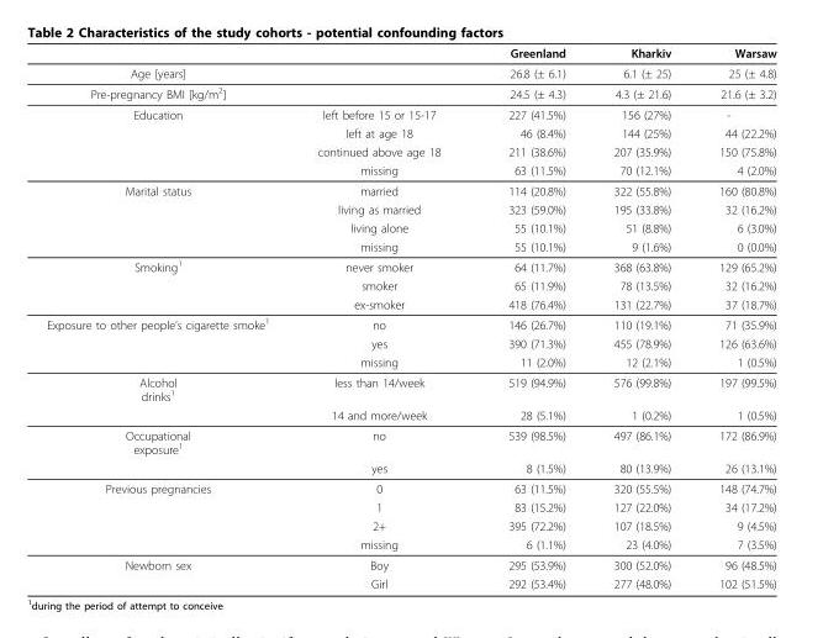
<table><thead><tr><td></td><td></td><td>Greenland</td><td>Kharkiv</td><td>Warsaw</td></tr></thead><tbody><tr><td>Age [years]</td><td></td><td>26.8 (± 6.1)</td><td>6.1 (± 25)</td><td>25 (± 4.8)</td></tr><tr><td>Pre-pregnancy BMI [kg/m<sup>2</sup>]</td><td></td><td>24.5 (± 4.3)</td><td>4.3 (± 21.6)</td><td>21.6 (± 3.2)</td></tr><tr><td rowspan="4">Education</td><td>left before 15 or 15-17</td><td>227 (41.5%)</td><td>156 (27%)</td><td>-</td></tr><tr><td>left at age 18</td><td>46 (8.4%)</td><td>144 (25%)</td><td>44 (22.2%)</td></tr><tr><td>continued above age 18</td><td>211 (38.6%)</td><td>207 (35.9%)</td><td>150 (75.8%)</td></tr><tr><td>missing</td><td>63 (11.5%)</td><td>70 (12.1%)</td><td>4 (2.0%)</td></tr><tr><td rowspan="4">Marital status</td><td>married</td><td>114 (20.8%)</td><td>322 (55.8%)</td><td>160 (80.8%)</td></tr><tr><td>living as married</td><td>323 (59.0%)</td><td>195 (33.8%)</td><td>32 (16.2%)</td></tr><tr><td>living alone</td><td>55 (10.1%)</td><td>51 (8.8%)</td><td>6 (3.0%)</td></tr><tr><td>missing</td><td>55 (10.1%)</td><td>9 (1.6%)</td><td>0 (0.0%)</td></tr><tr><td rowspan="3">Smoking<sup>1</sup></td><td>never smoker</td><td>64 (11.7%)</td><td>368 (63.8%)</td><td>129 (65.2%)</td></tr><tr><td>smoker</td><td>65 (11.9%)</td><td>78 (13.5%)</td><td>32 (16.2%)</td></tr><tr><td>ex-smoker</td><td>418 (76.4%)</td><td>131 (22.7%)</td><td>37 (18.7%)</td></tr><tr><td rowspan="3">Exposure to other people’s cigarette smoke<sup>1</sup></td><td>no</td><td>146 (26.7%)</td><td>110 (19.1%)</td><td>71 (35.9%)</td></tr><tr><td>yes</td><td>390 (71.3%)</td><td>455 (78.9%)</td><td>126 (63.6%)</td></tr><tr><td>missing</td><td>11 (2.0%)</td><td>12 (2.1%)</td><td>1 (0.5%)</td></tr><tr><td rowspan="2">Alcohol drinks<sup>1</sup></td><td>less than 14/week</td><td>519 (94.9%)</td><td>576 (99.8%)</td><td>197 (99.5%)</td></tr><tr><td>14 and more/week</td><td>28 (5.1%)</td><td>1 (0.2%)</td><td>1 (0.5%)</td></tr><tr><td rowspan="2">Occupational exposure<sup>1</sup></td><td>no</td><td>539 (98.5%)</td><td>497 (86.1%)</td><td>172 (86.9%)</td></tr><tr><td>yes</td><td>8 (1.5%)</td><td>80 (13.9%)</td><td>26 (13.1%)</td></tr><tr><td rowspan="4">Previous pregnancies</td><td>0</td><td>63 (11.5%)</td><td>320 (55.5%)</td><td>148 (74.7%)</td></tr><tr><td>1</td><td>83 (15.2%)</td><td>127 (22.0%)</td><td>34 (17.2%)</td></tr><tr><td>2+</td><td>395 (72.2%)</td><td>107 (18.5%)</td><td>9 (4.5%)</td></tr><tr><td>missing</td><td>6 (1.1%)</td><td>23 (4.0%)</td><td>7 (3.5%)</td></tr><tr><td rowspan="2">Newborn sex</td><td>Boy</td><td>295 (53.9%)</td><td>300 (52.0%)</td><td>96 (48.5%)</td></tr><tr><td>Girl</td><td>292 (53.4%)</td><td>277 (48.0%)</td><td>102 (51.5%)</td></tr></tbody></table>